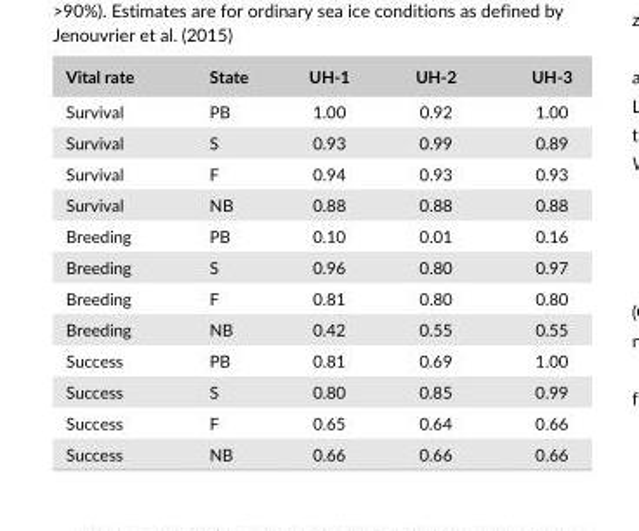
<table><thead><tr><td>Vital rate</td><td>State</td><td>UH-1</td><td>UH-2</td><td>UH-3</td></tr></thead><tbody><tr><td>Survival</td><td>PB</td><td>1.00</td><td>0.92</td><td>1.00</td></tr><tr><td>Survival</td><td>S</td><td>0.93</td><td>0.99</td><td>0.89</td></tr><tr><td>Survival</td><td>F</td><td>0.94</td><td>0.93</td><td>0.93</td></tr><tr><td>Survival</td><td>NB</td><td>0.88</td><td>0.88</td><td>0.88</td></tr><tr><td>Breeding</td><td>PB</td><td>0.10</td><td>0.01</td><td>0.16</td></tr><tr><td>Breeding</td><td>S</td><td>0.96</td><td>0.80</td><td>0.97</td></tr><tr><td>Breeding</td><td>F</td><td>0.81</td><td>0.80</td><td>0.80</td></tr><tr><td>Breeding</td><td>NB</td><td>0.42</td><td>0.55</td><td>0.55</td></tr><tr><td>Success</td><td>PB</td><td>0.81</td><td>0.69</td><td>1.00</td></tr><tr><td>Success</td><td>S</td><td>0.80</td><td>0.85</td><td>0.99</td></tr><tr><td>Success</td><td>F</td><td>0.65</td><td>0.64</td><td>0.66</td></tr><tr><td>Success</td><td>NB</td><td>0.66</td><td>0.66</td><td>0.66</td></tr></tbody></table>